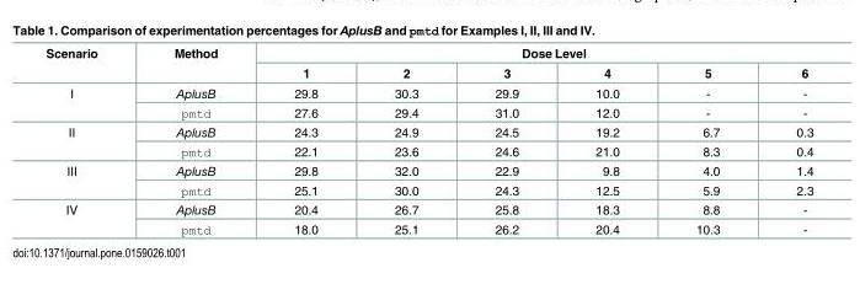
<table><thead><tr><td rowspan="2">Scenario</td><td rowspan="2">Method</td><td colspan="6">Dose Level</td></tr><tr><td>1</td><td>2</td><td>3</td><td>4</td><td>5</td><td>6</td></tr></thead><tbody><tr><td rowspan="2">I</td><td>AplusB</td><td>29.8</td><td>30.3</td><td>29.9</td><td>10.0</td><td>-</td><td>-</td></tr><tr><td>pmtd</td><td>27.6</td><td>29.4</td><td>31.0</td><td>12.0</td><td>-</td><td>-</td></tr><tr><td rowspan="2">II</td><td>AplusB</td><td>24.3</td><td>24.9</td><td>24.5</td><td>19.2</td><td>6.7</td><td>0.3</td></tr><tr><td>pmtd</td><td>22.1</td><td>23.6</td><td>24.6</td><td>21.0</td><td>8.3</td><td>0.4</td></tr><tr><td rowspan="2">III</td><td>AplusB</td><td>29.8</td><td>32.0</td><td>22.9</td><td>9.8</td><td>4.0</td><td>1.4</td></tr><tr><td>pmtd</td><td>25.1</td><td>30.0</td><td>24.3</td><td>12.5</td><td>5.9</td><td>2.3</td></tr><tr><td rowspan="2">IV</td><td>AplusB</td><td>20.4</td><td>26.7</td><td>25.8</td><td>18.3</td><td>8.8</td><td>-</td></tr><tr><td>pmtd</td><td>18.0</td><td>25.1</td><td>26.2</td><td>20.4</td><td>10.3</td><td>-</td></tr></tbody></table>